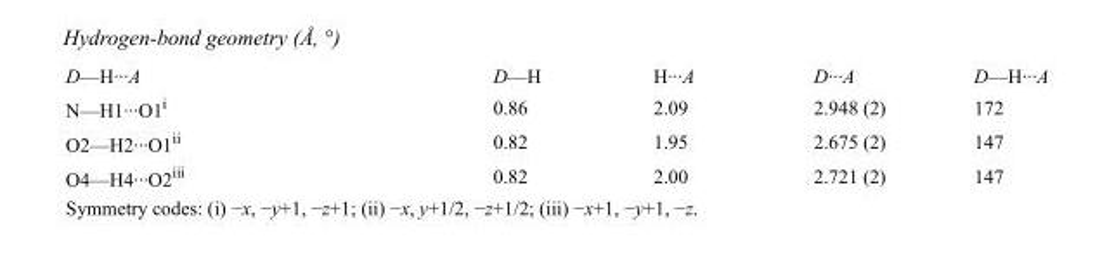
<table><tbody><tr><td>D—H···A</td><td>D—H</td><td>H···A</td><td>D···A</td><td>D—H···A</td></tr><tr><td>N—H1···O1<sup>i</sup></td><td>0.86</td><td>2.09</td><td>2.948 (2)</td><td>172</td></tr><tr><td>O2—H2···O1<sup>ii</sup></td><td>0.82</td><td>1.95</td><td>2.675 (2)</td><td>147</td></tr><tr><td>O4—H4···O2<sup>iii</sup></td><td>0.82</td><td>2.00</td><td>2.721 (2)</td><td>147</td></tr></tbody></table>